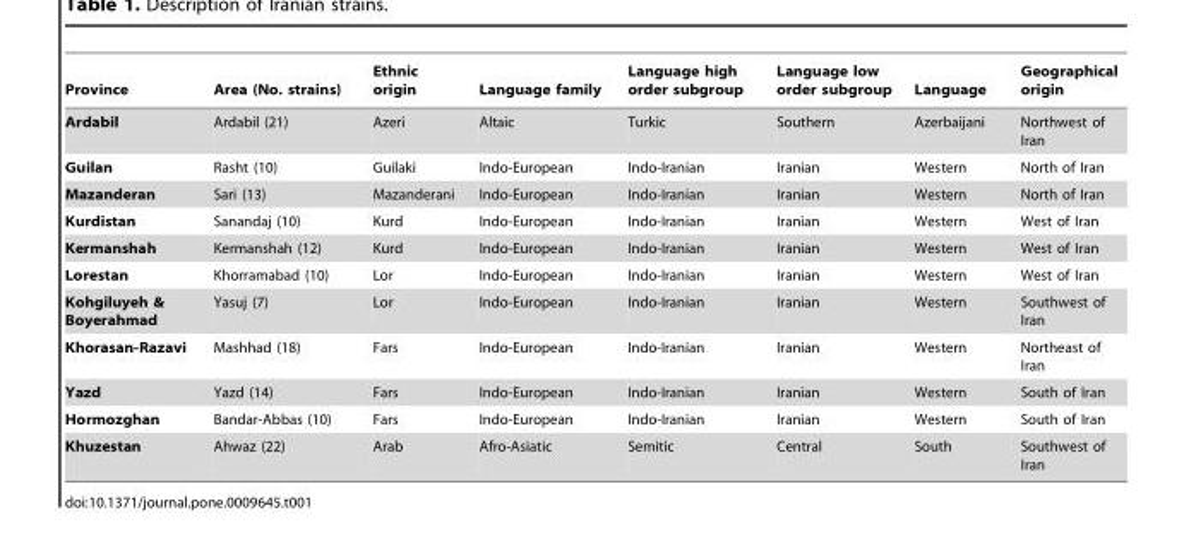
<table><thead><tr><td>Province</td><td>Area (No. strains)</td><td>Ethnic origin</td><td>Language family</td><td>Language high order subgroup</td><td>Language low order subgroup</td><td>Language</td><td>Geographical origin</td></tr></thead><tbody><tr><td>Ardabil</td><td>Ardabil (21)</td><td>Azeri</td><td>Altaic</td><td>Turkic</td><td>Southern</td><td>Azerbaijani</td><td>Northwest of Iran</td></tr><tr><td>Guilan</td><td>Rasht (10)</td><td>Guilaki</td><td>Indo-European</td><td>Indo-Iranian</td><td>Iranian</td><td>Western</td><td>North of Iran</td></tr><tr><td>Mazanderan</td><td>Sari (13)</td><td>Mazanderani</td><td>Indo-European</td><td>Indo-Iranian</td><td>Iranian</td><td>Western</td><td>North of Iran</td></tr><tr><td>Kurdistan</td><td>Sanandaj (10)</td><td>Kurd</td><td>Indo-European</td><td>Indo-Iranian</td><td>Iranian</td><td>Western</td><td>West of Iran</td></tr><tr><td>Kermanshah</td><td>Kermanshah (12)</td><td>Kurd</td><td>Indo-European</td><td>Indo-Iranian</td><td>Iranian</td><td>Western</td><td>West of Iran</td></tr><tr><td>Lorestan</td><td>Khorramabad (10)</td><td>Lor</td><td>Indo-European</td><td>Indo-Iranian</td><td>Iranian</td><td>Western</td><td>West of Iran</td></tr><tr><td>Kohgiluyeh &amp; Boyerahmad</td><td>Yasuj (7)</td><td>Lor</td><td>Indo-European</td><td>Indo-Iranian</td><td>Iranian</td><td>Western</td><td>Southwest of Iran</td></tr><tr><td>Khorasan-Razavi</td><td>Mashhad (18)</td><td>Fars</td><td>Indo-European</td><td>Indo-Iranian</td><td>Iranian</td><td>Western</td><td>Northeast of Iran</td></tr><tr><td>Yazd</td><td>Yazd (14)</td><td>Fars</td><td>Indo-European</td><td>Indo-Iranian</td><td>Iranian</td><td>Western</td><td>South of Iran</td></tr><tr><td>Hormozghan</td><td>Bandar-Abbas (10)</td><td>Fars</td><td>Indo-European</td><td>Indo-Iranian</td><td>Iranian</td><td>Western</td><td>South of Iran</td></tr><tr><td>Khuzestan</td><td>Ahwaz (22)</td><td>Arab</td><td>Afro-Asiatic</td><td>Semitic</td><td>Central</td><td>South</td><td>Southwest of Iran</td></tr></tbody></table>